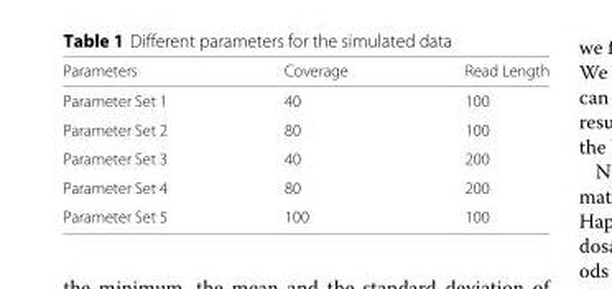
<table><thead><tr><td>Parameters</td><td>Coverage</td><td>Read Length</td></tr></thead><tbody><tr><td>Parameter Set 1</td><td>40</td><td>100</td></tr><tr><td>Parameter Set 2</td><td>80</td><td>100</td></tr><tr><td>Parameter Set 3</td><td>40</td><td>200</td></tr><tr><td>Parameter Set 4</td><td>80</td><td>200</td></tr><tr><td>Parameter Set 5</td><td>100</td><td>100</td></tr></tbody></table>